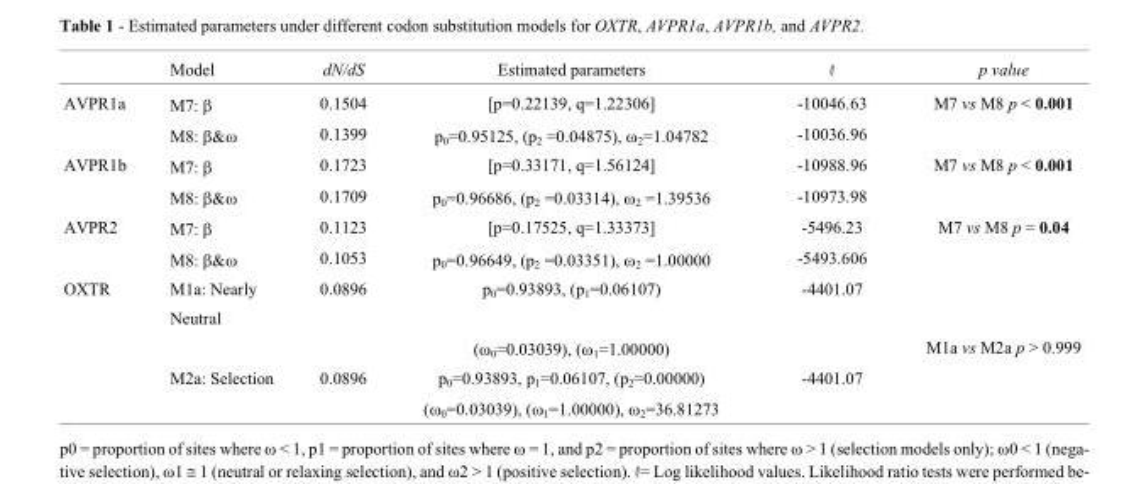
<table><thead><tr><td></td><td>Model</td><td>dN/dS</td><td>Estimated parameters</td><td>ℓ</td><td>p value</td></tr></thead><tbody><tr><td rowspan="2">AVPR1a</td><td>M7: β</td><td>0.1504</td><td>[p=0.22139, q=1.22306]</td><td>-10046.63</td><td>M7 vs M8 p &lt; 0.001</td></tr><tr><td>M8: β&amp;ω</td><td>0.1399</td><td>p<sub>0</sub>=0.95125, (p<sub>2</sub> =0.04875), ω<sub>2</sub>=1.04782</td><td>-10036.96</td><td></td></tr><tr><td rowspan="2">AVPR1b</td><td>M7: β</td><td>0.1723</td><td>[p=0.33171, q=1.56124]</td><td>-10988.96</td><td>M7 vs M8 p &lt; 0.001</td></tr><tr><td>M8: β&amp;ω</td><td>0.1709</td><td>p<sub>0</sub>=0.96686, (p<sub>2</sub> =0.03314), ω<sub>2</sub> =1.39536</td><td>-10973.98</td><td></td></tr><tr><td rowspan="2">AVPR2</td><td>M7: β</td><td>0.1123</td><td>[p=0.17525, q=1.33373]</td><td>-5496.23</td><td>M7 vs M8 p = 0.04</td></tr><tr><td>M8: β&amp;ω</td><td>0.1053</td><td>p<sub>0</sub>=0.96649, (p<sub>2</sub> =0.03351), ω<sub>2</sub> =1.00000</td><td>-5493.606</td><td></td></tr><tr><td rowspan="5">OXTR</td><td>M1a: Nearly</td><td>0.0896</td><td>p<sub>0</sub>=0.93893, (p<sub>1</sub>=0.06107)</td><td>-4401.07</td><td></td></tr><tr><td>Neutral</td><td></td><td></td><td></td><td></td></tr><tr><td></td><td></td><td>(ω<sub>0</sub>=0.03039), (ω<sub>1</sub>=1.00000)</td><td></td><td>M1a vs M2a p &gt; 0.999</td></tr><tr><td>M2a: Selection</td><td>0.0896</td><td>p<sub>0</sub>=0.93893, p<sub>1</sub>=0.06107, (p<sub>2</sub>=0.00000)</td><td>-4401.07</td><td></td></tr><tr><td></td><td></td><td>(ω<sub>0</sub>=0.03039), (ω<sub>1</sub>=1.00000), ω<sub>2</sub>=36.81273</td><td></td><td></td></tr></tbody></table>